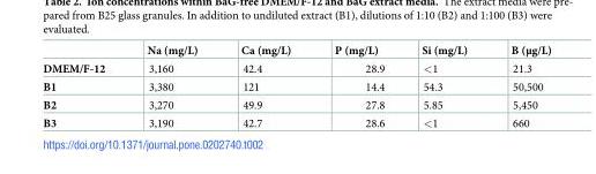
<table><thead><tr><td></td><td>Na (mg/L)</td><td>Ca (mg/L)</td><td>P (mg/L)</td><td>Si (mg/L)</td><td>B (μg/L)</td></tr></thead><tbody><tr><td>DMEM/F-12</td><td>3,160</td><td>42.4</td><td>28.9</td><td>&lt;1</td><td>21.3</td></tr><tr><td>B1</td><td>3,380</td><td>121</td><td>14.4</td><td>54.3</td><td>50,500</td></tr><tr><td>B2</td><td>3,270</td><td>49.9</td><td>27.8</td><td>5.85</td><td>5,450</td></tr><tr><td>B3</td><td>3,190</td><td>42.7</td><td>28.6</td><td>&lt;1</td><td>660</td></tr></tbody></table>